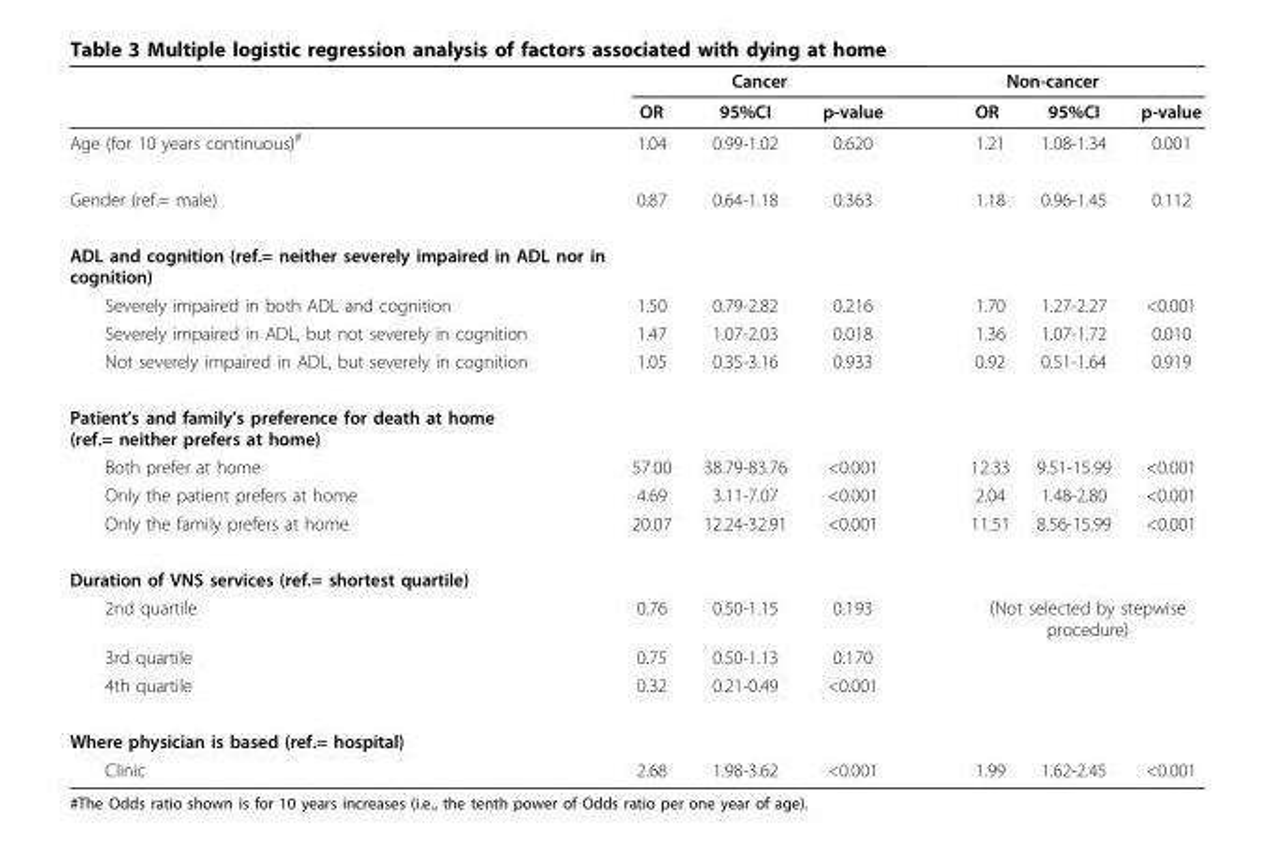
<table><thead><tr><td rowspan="2"></td><td colspan="3">Cancer</td><td colspan="3">Non-cancer</td></tr><tr><td>OR</td><td>95%CI</td><td>p-value</td><td>OR</td><td>95%CI</td><td>p-value</td></tr></thead><tbody><tr><td>Age (for 10 years continuous)<sup>#</sup></td><td>1.04</td><td>0.99-1.02</td><td>0.620</td><td>1.21</td><td>1.08-1.34</td><td>0.001</td></tr><tr><td>Gender (ref.= male)</td><td>0.87</td><td>0.64-1.18</td><td>0.363</td><td>1.18</td><td>0.96-1.45</td><td>0.112</td></tr><tr><td colspan="7">ADL and cognition (ref.= neither severely impaired in ADL nor in cognition)</td></tr><tr><td>Severely impaired in both ADL and cognition</td><td>1.50</td><td>0.79-2.82</td><td>0.216</td><td>1.70</td><td>1.27-2.27</td><td>&lt;0.001</td></tr><tr><td>Severely impaired in ADL, but not severely in cognition</td><td>1.47</td><td>1.07-2.03</td><td>0.018</td><td>1.36</td><td>1.07-1.72</td><td>0.010</td></tr><tr><td>Not severely impaired in ADL, but severely in cognition</td><td>1.05</td><td>0.35-3.16</td><td>0.933</td><td>0.92</td><td>0.51-1.64</td><td>0.919</td></tr><tr><td colspan="7">Patient’s and family’s preference for death at home (ref.= neither prefers at home)</td></tr><tr><td>Both prefer at home</td><td>57.00</td><td>38.79-83.76</td><td>&lt;0.001</td><td>12.33</td><td>9.51-15.99</td><td>&lt;0.001</td></tr><tr><td>Only the patient prefers at home</td><td>4.69</td><td>3.11-7.07</td><td>&lt;0.001</td><td>2.04</td><td>1.48-2.80</td><td>&lt;0.001</td></tr><tr><td>Only the family prefers at home</td><td>20.07</td><td>12.24-32.91</td><td>&lt;0.001</td><td>11.51</td><td>8.56-15.99</td><td>&lt;0.001</td></tr><tr><td colspan="7">Duration of VNS services (ref.= shortest quartile)</td></tr><tr><td>2nd quartile</td><td>0.76</td><td>0.50-1.15</td><td>0.193</td><td colspan="3">(Not selected by stepwise procedure)</td></tr><tr><td>3rd quartile</td><td>0.75</td><td>0.50-1.13</td><td>0.170</td><td></td><td></td><td></td></tr><tr><td>4th quartile</td><td>0.32</td><td>0.21-0.49</td><td>&lt;0.001</td><td></td><td></td><td></td></tr><tr><td colspan="7">Where physician is based (ref.= hospital)</td></tr><tr><td>Clinic</td><td>2.68</td><td>1.98-3.62</td><td>&lt;0.001</td><td>1.99</td><td>1.62-2.45</td><td>&lt;0.001</td></tr></tbody></table>